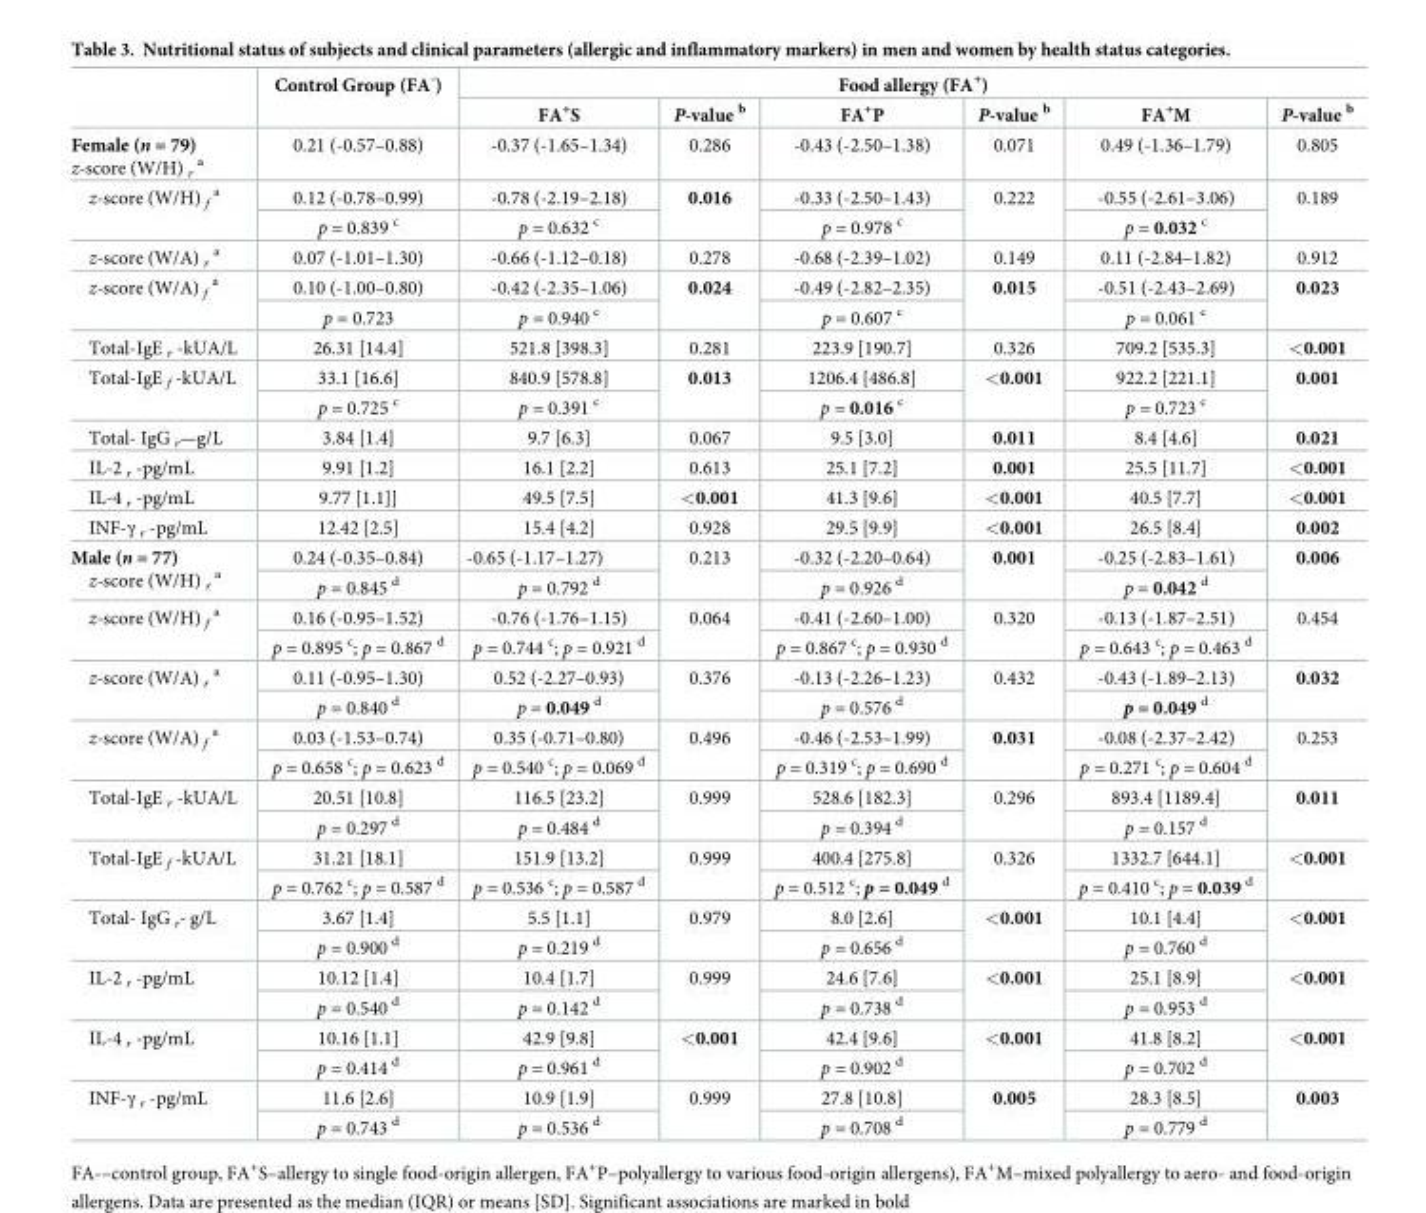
<table><thead><tr><td rowspan="2"></td><td rowspan="2">Control Group (FA<sup>-</sup>)</td><td colspan="6">Food allergy (FA<sup>+</sup>)</td></tr><tr><td>FA<sup>+</sup>S</td><td>P-value <sup>b</sup></td><td>FA<sup>+</sup>P</td><td>P-value <sup>b</sup></td><td>FA<sup>+</sup>M</td><td>P-value <sup>b</sup></td></tr></thead><tbody><tr><td>Female (n = 79) z-score (W/H) <sub>r</sub> <sup>a</sup></td><td>0.21 (-0.57–0.88)</td><td>-0.37 (-1.65–1.34)</td><td>0.286</td><td>-0.43 (-2.50–1.38)</td><td>0.071</td><td>0.49 (-1.36–1.79)</td><td>0.805</td></tr><tr><td rowspan="2">z-score (W/H) <sub>f</sub> <sup>a</sup></td><td>0.12 (-0.78–0.99)</td><td>-0.78 (-2.19–2.18)</td><td rowspan="2">0.016</td><td>-0.33 (-2.50–1.43)</td><td rowspan="2">0.222</td><td>-0.55 (-2.61–3.06)</td><td rowspan="2">0.189</td></tr><tr><td>p = 0.839 <sup>c</sup></td><td>p = 0.632 <sup>c</sup></td><td>p = 0.978 <sup>c</sup></td><td>p = 0.032 <sup>c</sup></td></tr><tr><td>z-score (W/A) <sub>r</sub> <sup>a</sup></td><td>0.07 (-1.01–1.30)</td><td>-0.66 (-1.12–0.18)</td><td>0.278</td><td>-0.68 (-2.39–1.02)</td><td>0.149</td><td>0.11 (-2.84–1.82)</td><td>0.912</td></tr><tr><td rowspan="2">z-score (W/A) <sub>f</sub> <sup>a</sup></td><td>0.10 (-1.00–0.80)</td><td>-0.42 (-2.35–1.06)</td><td rowspan="2">0.024</td><td>-0.49 (-2.82–2.35)</td><td rowspan="2">0.015</td><td>-0.51 (-2.43–2.69)</td><td rowspan="2">0.023</td></tr><tr><td>p = 0.723</td><td>p = 0.940 <sup>c</sup></td><td>p = 0.607 <sup>c</sup></td><td>p = 0.061 <sup>c</sup></td></tr><tr><td>Total-IgE <sub>r</sub> -kUA/L</td><td>26.31 [14.4]</td><td>521.8 [398.3]</td><td>0.281</td><td>223.9 [190.7]</td><td>0.326</td><td>709.2 [535.3]</td><td>&lt;0.001</td></tr><tr><td rowspan="2">Total-IgE <sub>f</sub> -kUA/L</td><td>33.1 [16.6]</td><td>840.9 [578.8]</td><td rowspan="2">0.013</td><td>1206.4 [486.8]</td><td rowspan="2">&lt;0.001</td><td>922.2 [221.1]</td><td rowspan="2">0.001</td></tr><tr><td>p = 0.725 <sup>c</sup></td><td>p = 0.391 <sup>c</sup></td><td>p = 0.016 <sup>c</sup></td><td>p = 0.723 <sup>c</sup></td></tr><tr><td>Total- IgG <sub>r</sub>—g/L</td><td>3.84 [1.4]</td><td>9.7 [6.3]</td><td>0.067</td><td>9.5 [3.0]</td><td>0.011</td><td>8.4 [4.6]</td><td>0.021</td></tr><tr><td>IL-2 <sub>r</sub> -pg/mL</td><td>9.91 [1.2]</td><td>16.1 [2.2]</td><td>0.613</td><td>25.1 [7.2]</td><td>0.001</td><td>25.5 [11.7]</td><td>&lt;0.001</td></tr><tr><td>IL-4 <sub>r</sub> -pg/mL</td><td>9.77 [1.1]]</td><td>49.5 [7.5]</td><td>&lt;0.001</td><td>41.3 [9.6]</td><td>&lt;0.001</td><td>40.5 [7.7]</td><td>&lt;0.001</td></tr><tr><td>INF-γ <sub>r</sub> -pg/mL</td><td>12.42 [2.5]</td><td>15.4 [4.2]</td><td>0.928</td><td>29.5 [9.9]</td><td>&lt;0.001</td><td>26.5 [8.4]</td><td>0.002</td></tr><tr><td rowspan="2">Male (n = 77) z-score (W/H) <sub>r</sub> <sup>a</sup></td><td>0.24 (-0.35–0.84)</td><td>-0.65 (-1.17–1.27)</td><td rowspan="2">0.213</td><td>-0.32 (-2.20–0.64)</td><td rowspan="2">0.001</td><td>-0.25 (-2.83–1.61)</td><td rowspan="2">0.006</td></tr><tr><td>p = 0.845 <sup>d</sup></td><td>p = 0.792 <sup>d</sup></td><td>p = 0.926 <sup>d</sup></td><td>p = 0.042 <sup>d</sup></td></tr><tr><td rowspan="2">z-score (W/H) <sub>f</sub> <sup>a</sup></td><td>0.16 (-0.95–1.52)</td><td>-0.76 (-1.76–1.15)</td><td rowspan="2">0.064</td><td>-0.41 (-2.60–1.00)</td><td rowspan="2">0.320</td><td>-0.13 (-1.87–2.51)</td><td rowspan="2">0.454</td></tr><tr><td>p = 0.895 <sup>c</sup>; p = 0.867 <sup>d</sup></td><td>p = 0.744 <sup>c</sup>; p = 0.921 <sup>d</sup></td><td>p = 0.867 <sup>c</sup>; p = 0.930 <sup>d</sup></td><td>p = 0.643 <sup>c</sup>; p = 0.463 <sup>d</sup></td></tr><tr><td rowspan="2">z-score (W/A) <sub>r</sub> <sup>a</sup></td><td>0.11 (-0.95–1.30)</td><td>0.52 (-2.27–0.93)</td><td rowspan="2">0.376</td><td>-0.13 (-2.26–1.23)</td><td rowspan="2">0.432</td><td>-0.43 (-1.89–2.13)</td><td rowspan="2">0.032</td></tr><tr><td>p = 0.840 <sup>d</sup></td><td>p = 0.049 <sup>d</sup></td><td>p = 0.576 <sup>d</sup></td><td>p = 0.049 <sup>d</sup></td></tr><tr><td rowspan="2">z-score (W/A) <sub>f</sub> <sup>a</sup></td><td>0.03 (-1.53–0.74)</td><td>0.35 (-0.71–0.80)</td><td rowspan="2">0.496</td><td>-0.46 (-2.53–1.99)</td><td rowspan="2">0.031</td><td>-0.08 (-2.37–2.42)</td><td rowspan="2">0.253</td></tr><tr><td>p = 0.658 <sup>c</sup>; p = 0.623 <sup>d</sup></td><td>p = 0.540 <sup>c</sup>; p = 0.069 <sup>d</sup></td><td>p = 0.319 <sup>c</sup>; p = 0.690 <sup>d</sup></td><td>p = 0.271 <sup>c</sup>; p = 0.604 <sup>d</sup></td></tr><tr><td rowspan="2">Total-IgE <sub>r</sub> -kUA/L</td><td>20.51 [10.8]</td><td>116.5 [23.2]</td><td rowspan="2">0.999</td><td>528.6 [182.3]</td><td rowspan="2">0.296</td><td>893.4 [1189.4]</td><td rowspan="2">0.011</td></tr><tr><td>p = 0.297 <sup>d</sup></td><td>p = 0.484 <sup>d</sup></td><td>p = 0.394 <sup>d</sup></td><td>p = 0.157 <sup>d</sup></td></tr><tr><td rowspan="2">Total-IgE <sub>f</sub> -kUA/L</td><td>31.21 [18.1]</td><td>151.9 [13.2]</td><td rowspan="2">0.999</td><td>400.4 [275.8]</td><td rowspan="2">0.326</td><td>1332.7 [644.1]</td><td rowspan="2">&lt;0.001</td></tr><tr><td>p = 0.762 <sup>c</sup>; p = 0.587 <sup>d</sup></td><td>p = 0.536 <sup>c</sup>; p = 0.587 <sup>d</sup></td><td>p = 0.512 <sup>c</sup>; p = 0.049 <sup>d</sup></td><td>p = 0.410 <sup>c</sup>; p = 0.039 <sup>d</sup></td></tr><tr><td rowspan="2">Total- IgG <sub>r</sub>- g/L</td><td>3.67 [1.4]</td><td>5.5 [1.1]</td><td rowspan="2">0.979</td><td>8.0 [2.6]</td><td rowspan="2">&lt;0.001</td><td>10.1 [4.4]</td><td rowspan="2">&lt;0.001</td></tr><tr><td>p = 0.900 <sup>d</sup></td><td>p = 0.219 <sup>d</sup></td><td>p = 0.656 <sup>d</sup></td><td>p = 0.760 <sup>d</sup></td></tr><tr><td rowspan="2">IL-2 <sub>r</sub> -pg/mL</td><td>10.12 [1.4]</td><td>10.4 [1.7]</td><td rowspan="2">0.999</td><td>24.6 [7.6]</td><td rowspan="2">&lt;0.001</td><td>25.1 [8.9]</td><td rowspan="2">&lt;0.001</td></tr><tr><td>p = 0.540 <sup>d</sup></td><td>p = 0.142 <sup>d</sup></td><td>p = 0.738 <sup>d</sup></td><td>p = 0.953 <sup>d</sup></td></tr><tr><td rowspan="2">IL-4 <sub>r</sub> -pg/mL</td><td>10.16 [1.1]</td><td>42.9 [9.8]</td><td rowspan="2">&lt;0.001</td><td>42.4 [9.6]</td><td rowspan="2">&lt;0.001</td><td>41.8 [8.2]</td><td rowspan="2">&lt;0.001</td></tr><tr><td>p = 0.414 <sup>d</sup></td><td>p = 0.961 <sup>d</sup></td><td>p = 0.902 <sup>d</sup></td><td>p = 0.702 <sup>d</sup></td></tr><tr><td rowspan="2">INF-γ <sub>r</sub> -pg/mL</td><td>11.6 [2.6]</td><td>10.9 [1.9]</td><td rowspan="2">0.999</td><td>27.8 [10.8]</td><td rowspan="2">0.005</td><td>28.3 [8.5]</td><td rowspan="2">0.003</td></tr><tr><td>p = 0.743 <sup>d</sup></td><td>p = 0.536 <sup>d</sup></td><td>p = 0.708 <sup>d</sup></td><td>p = 0.779 <sup>d</sup></td></tr></tbody></table>